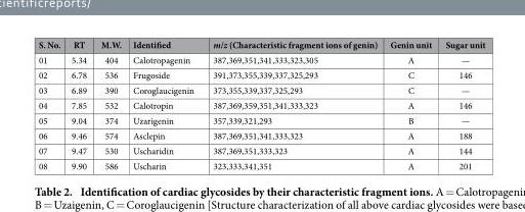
<table><thead><tr><td>S. No.</td><td>RT</td><td>M.W.</td><td>Identified</td><td>m/z (Characteristic fragment ions of genin)</td><td>Genin unit</td><td>Sugar unit</td></tr></thead><tbody><tr><td>01</td><td>5.34</td><td>404</td><td>Calotropagenin</td><td>387,369,351,341,333,323,305</td><td>A</td><td>—</td></tr><tr><td>02</td><td>6.78</td><td>536</td><td>Frugoside</td><td>391,373,355,339,337,325,293</td><td>C</td><td>146</td></tr><tr><td>03</td><td>6.89</td><td>390</td><td>Coroglaucigenin</td><td>373,355,339,337,325,293</td><td>C</td><td>—</td></tr><tr><td>04</td><td>7.85</td><td>532</td><td>Calotropin</td><td>387,369,359,351,341,333,323</td><td>A</td><td>146</td></tr><tr><td>05</td><td>9.04</td><td>374</td><td>Uzarigenin</td><td>357,339,321,293</td><td>B</td><td>—</td></tr><tr><td>06</td><td>9.46</td><td>574</td><td>Asclepin</td><td>387,369,351,341,333,323</td><td>A</td><td>188</td></tr><tr><td>07</td><td>9.47</td><td>530</td><td>Uscharidin</td><td>387,369,351,333,323</td><td>A</td><td>144</td></tr><tr><td>08</td><td>9.90</td><td>586</td><td>Uscharin</td><td>323,333,341,351</td><td>A</td><td>201</td></tr></tbody></table>